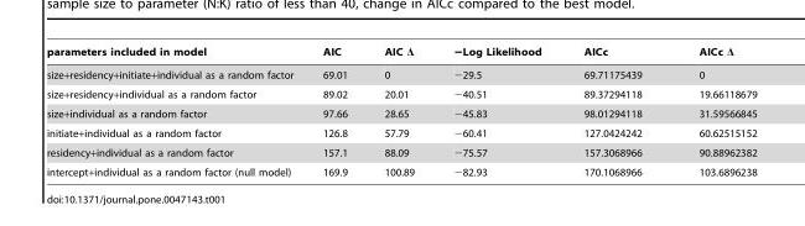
<table><thead><tr><td>parameters included in model</td><td>AIC</td><td>AIC Δ</td><td>−Log Likelihood</td><td>AICc</td><td>AICc Δ</td></tr></thead><tbody><tr><td>size+residency+initiate+individual as a random factor</td><td>69.01</td><td>0</td><td>−29.5</td><td>69.71175439</td><td>0</td></tr><tr><td>size+residency+individual as a random factor</td><td>89.02</td><td>20.01</td><td>−40.51</td><td>89.37294118</td><td>19.66118679</td></tr><tr><td>size+individual as a random factor</td><td>97.66</td><td>28.65</td><td>−45.83</td><td>98.01294118</td><td>31.59566845</td></tr><tr><td>initiate+individual as a random factor</td><td>126.8</td><td>57.79</td><td>−60.41</td><td>127.0424242</td><td>60.62515152</td></tr><tr><td>residency+individual as a random factor</td><td>157.1</td><td>88.09</td><td>−75.57</td><td>157.3068966</td><td>90.88962382</td></tr><tr><td>intercept+individual as a random factor (null model)</td><td>169.9</td><td>100.89</td><td>−82.93</td><td>170.1068966</td><td>103.6896238</td></tr></tbody></table>